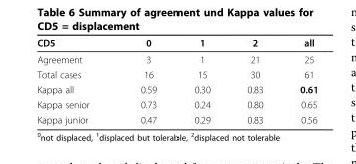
<table><thead><tr><td>CD5</td><td>0</td><td>1</td><td>2</td><td>all</td></tr></thead><tbody><tr><td>Agreement</td><td>3</td><td>1</td><td>21</td><td>25</td></tr><tr><td>Total cases</td><td>16</td><td>15</td><td>30</td><td>61</td></tr><tr><td>Kappa all</td><td>0.59</td><td>0.30</td><td>0.83</td><td>0.61</td></tr><tr><td>Kappa senior</td><td>0.73</td><td>0.24</td><td>0.80</td><td>0.65</td></tr><tr><td>Kappa junior</td><td>0.47</td><td>0.29</td><td>0.83</td><td>0.56</td></tr></tbody></table>